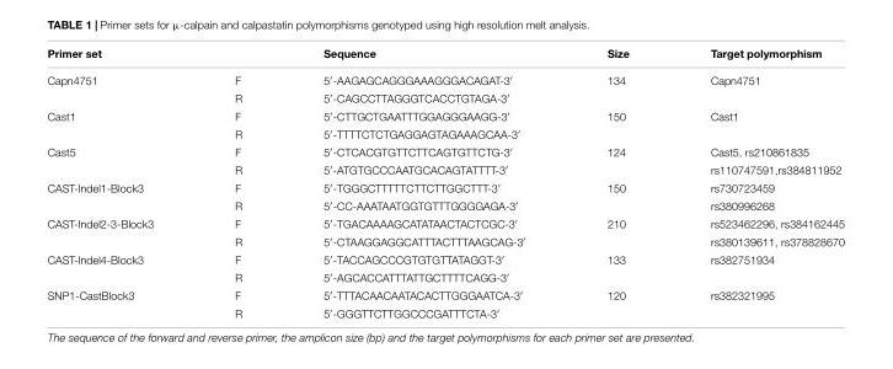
<table><thead><tr><td colspan="2">Primer set</td><td rowspan="2">Sequence 5′-AAGAGCAGGGAAAGGGACAGAT-3′</td><td rowspan="2">Size 134</td><td rowspan="2">Target polymorphism Capn4751</td></tr><tr><td>Capn4751</td><td>F</td></tr></thead><tbody><tr><td></td><td>R</td><td>5′-CAGCCTTAGGGTCACCTGTAGA-3′</td><td></td><td></td></tr><tr><td rowspan="2">Cast1</td><td>F</td><td>5′-CTTGCTGAATTTGGAGGGAAGG-3′</td><td>150</td><td>Cast1</td></tr><tr><td>R</td><td>5′-TTTTCTCTGAGGAGTAGAAAGCAA-3′</td><td></td><td></td></tr><tr><td rowspan="2">Cast5</td><td>F</td><td>5′-CTCACGTGTTCTTCAGTGTTCTG-3′</td><td>124</td><td>Cast5, rs210861835</td></tr><tr><td>R</td><td>5′-ATGTGCCCAATGCACAGTATTTT-3′</td><td></td><td>rs110747591,rs384811952</td></tr><tr><td rowspan="2">CAST-Indel1-Block3</td><td>F</td><td>5′-TGGGCTTTTTCTTCTTGGCTTT-3′</td><td>150</td><td>rs730723459</td></tr><tr><td>R</td><td>5′-CC-AAATAATGGTGTTTGGGGAGA-3′</td><td></td><td>rs380996268</td></tr><tr><td rowspan="2">CAST-Indel2-3-Block3</td><td>F</td><td>5′-TGACAAAAGCATATAACTACTCGC-3′</td><td>210</td><td>rs523462296, rs384162445</td></tr><tr><td>R</td><td>5′-CTAAGGAGGCATTTACTTTAAGCAG-3′</td><td></td><td>rs380139611, rs378828670</td></tr><tr><td rowspan="2">CAST-Indel4-Block3</td><td>F</td><td>5′-TACCAGCCCGTGTGTTATAGGT-3′</td><td>133</td><td>rs382751934</td></tr><tr><td>R</td><td>5′-AGCACCATTTATTGCTTTTCAGG-3′</td><td></td><td></td></tr><tr><td rowspan="2">SNP1-CastBlock3</td><td>F</td><td>5′-TTTACAACAATACACTTGGGAATCA-3′</td><td>120</td><td>rs382321995</td></tr><tr><td>R</td><td>5′-GGGTTCTTGGCCCGATTTCTA-3′</td><td></td><td></td></tr></tbody></table>